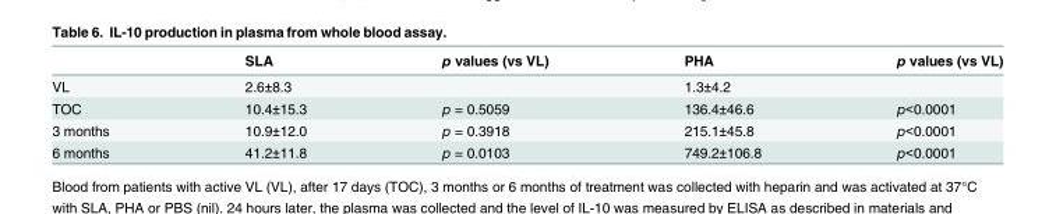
<table><thead><tr><td></td><td>SLA</td><td>p values (vs VL)</td><td>PHA</td><td>p values (vs VL)</td></tr></thead><tbody><tr><td>VL</td><td>2.6±8.3</td><td></td><td>1.3±4.2</td><td></td></tr><tr><td>TOC</td><td>10.4±15.3</td><td>p = 0.5059</td><td>136.4±46.6</td><td>p&lt;0.0001</td></tr><tr><td>3 months</td><td>10.9±12.0</td><td>p = 0.3918</td><td>215.1±45.8</td><td>p&lt;0.0001</td></tr><tr><td>6 months</td><td>41.2±11.8</td><td>p = 0.0103</td><td>749.2±106.8</td><td>p&lt;0.0001</td></tr></tbody></table>